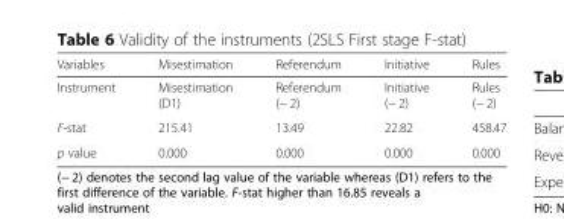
<table><thead><tr><td>Variables</td><td>Misestimation</td><td>Referendum</td><td>Initiative</td><td>Rules</td></tr></thead><tbody><tr><td>Instrument</td><td>Misestimation (D1)</td><td>Referendum (− 2)</td><td>Initiative (− 2)</td><td>Rules (− 2)</td></tr><tr><td>F-stat</td><td>215.41</td><td>13.49</td><td>22.82</td><td>458.47</td></tr><tr><td>p value</td><td>0.000</td><td>0.000</td><td>0.000</td><td>0.000</td></tr></tbody></table>